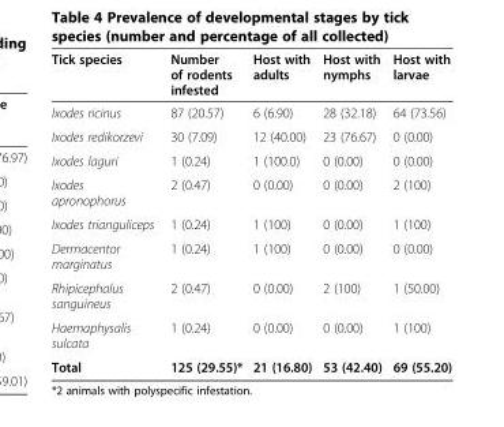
<table><thead><tr><td>Tick species</td><td>Number of rodents infested</td><td>Host with adults</td><td>Host with nymphs</td><td>Host with larvae</td></tr></thead><tbody><tr><td>Ixodes ricinus</td><td>87 (20.57)</td><td>6 (6.90)</td><td>28 (32.18)</td><td>64 (73.56)</td></tr><tr><td>Ixodes redikorzevi</td><td>30 (7.09)</td><td>12 (40.00)</td><td>23 (76.67)</td><td>0 (0.00)</td></tr><tr><td>Ixodes laguri</td><td>1 (0.24)</td><td>1 (100.0)</td><td>0 (0.00)</td><td>0 (0.00)</td></tr><tr><td>Ixodes apronophorus</td><td>2 (0.47)</td><td>0 (0.00)</td><td>0 (0.00)</td><td>2 (100)</td></tr><tr><td>Ixodes trianguliceps</td><td>1 (0.24)</td><td>1 (100)</td><td>0 (0.00)</td><td>1 (100)</td></tr><tr><td>Dermacentor marginatus</td><td>1 (0.24)</td><td>1 (100)</td><td>0 (0.00)</td><td>0 (0.00)</td></tr><tr><td>Rhipicephalus sanguineus</td><td>2 (0.47)</td><td>0 (0.00)</td><td>2 (100)</td><td>1 (50.00)</td></tr><tr><td>Haemaphysalis sulcata</td><td>1 (0.24)</td><td>0 (0.00)</td><td>0 (0.00)</td><td>1 (100)</td></tr><tr><td>Total</td><td>125 (29.55)*</td><td>21 (16.80)</td><td>53 (42.40)</td><td>69 (55.20)</td></tr></tbody></table>